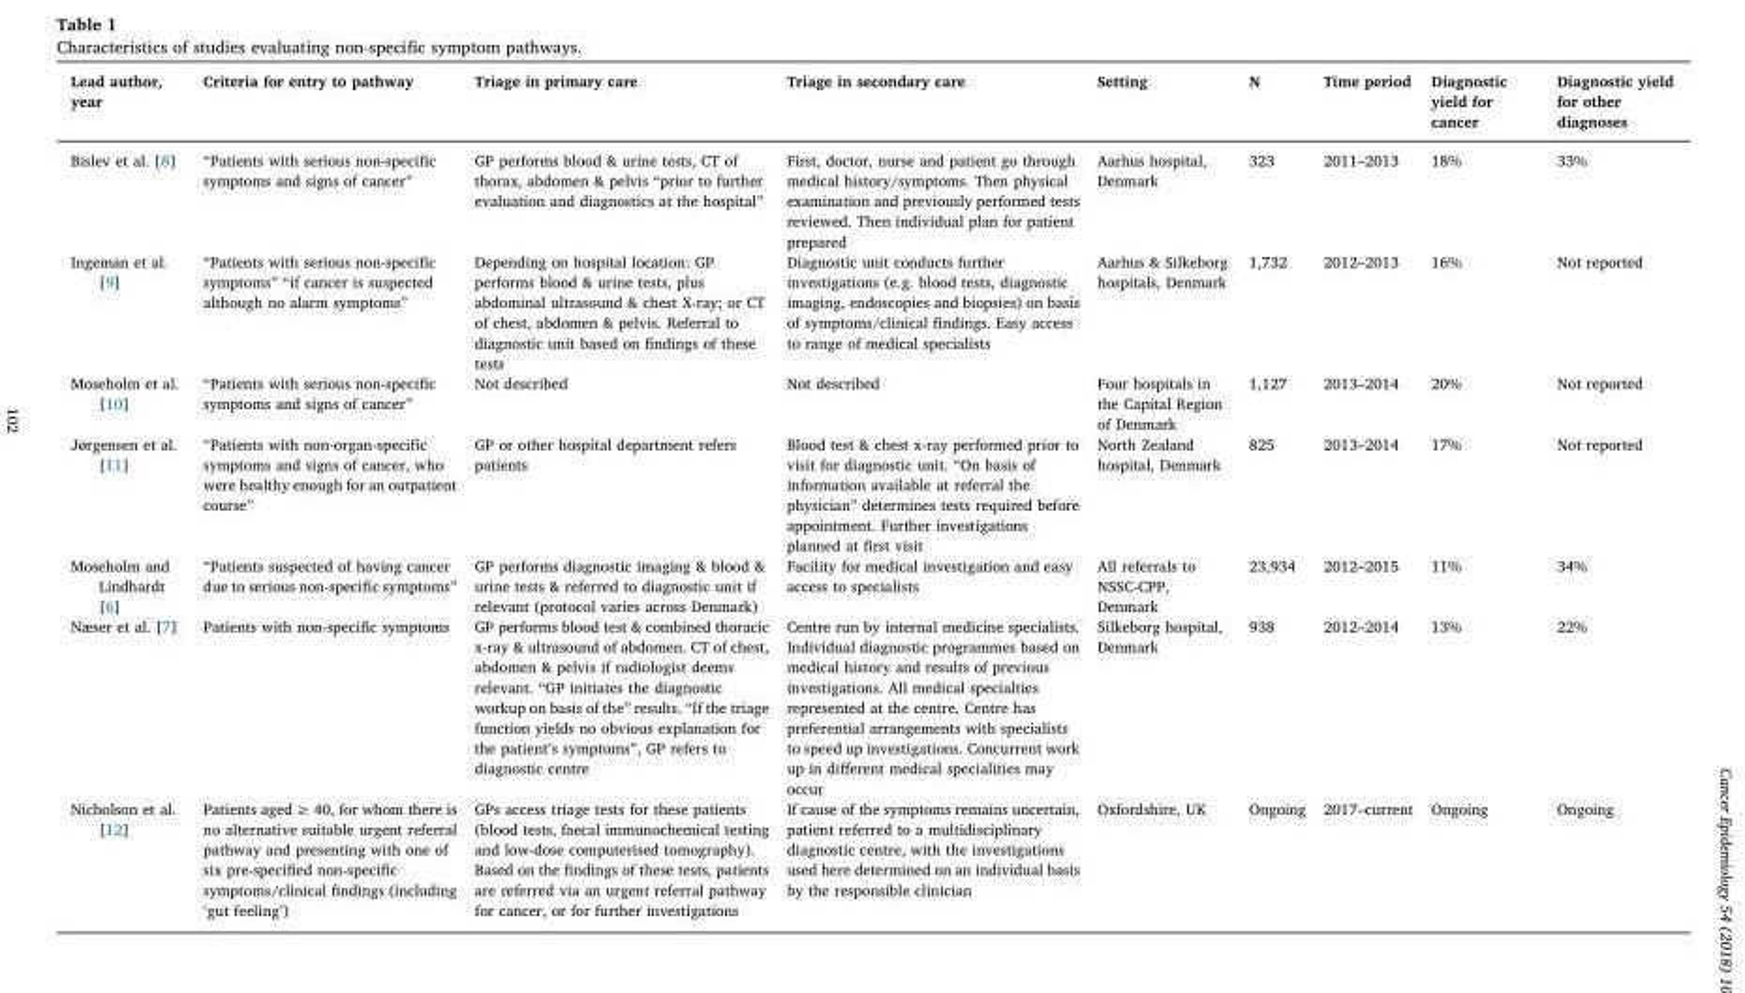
<table><thead><tr><td>Lead author, year</td><td>Criteria for entry to pathway</td><td>Triage in primary care</td><td>Triage in secondary care</td><td>Setting</td><td>N</td><td>Time period</td><td>Diagnostic yield for cancer</td><td>Diagnostic yield for other diagnoses</td></tr></thead><tbody><tr><td>Bislev et al. [8]</td><td>“Patients with serious non-specific symptoms and signs of cancer”</td><td>GP performs blood &amp; urine tests, CT of thorax, abdomen &amp; pelvis “prior to further evaluation and diagnostics at the hospital”</td><td>First, doctor, nurse and patient go through medical history/symptoms. Then physical examination and previously performed tests reviewed. Then individual plan for patient prepared</td><td>Aarhus hospital, Denmark</td><td>323</td><td>2011–2013</td><td>18%</td><td>33%</td></tr><tr><td>Ingeman et al. [9]</td><td>“Patients with serious non-specific symptoms” “if cancer is suspected although no alarm symptoms”</td><td>Depending on hospital location: GP performs blood &amp; urine tests, plus abdominal ultrasound &amp; chest X-ray; or CT of chest, abdomen &amp; pelvis. Referral to diagnostic unit based on findings of these tests</td><td>Diagnostic unit conducts further investigations (e.g. blood tests, diagnostic imaging, endoscopies and biopsies) on basis of symptoms/clinical findings. Easy access to range of medical specialists</td><td>Aarhus &amp; Silkeborg hospitals, Denmark</td><td>1,732</td><td>2012–2013</td><td>16%</td><td>Not reported</td></tr><tr><td>Moseholm et al. [10]</td><td>“Patients with serious non-specific symptoms and signs of cancer”</td><td>Not described</td><td>Not described</td><td>Four hospitals in the Capital Region of Denmark</td><td>1,127</td><td>2013–2014</td><td>20%</td><td>Not reported</td></tr><tr><td>Jørgensen et al. [11]</td><td>“Patients with non-organ-specific symptoms and signs of cancer, who were healthy enough for an outpatient course”</td><td>GP or other hospital department refers patients</td><td>Blood test &amp; chest x-ray performed prior to visit for diagnostic unit. “On basis of information available at referral the physician” determines tests required before appointment. Further investigations planned at first visit</td><td>North Zealand hospital, Denmark</td><td>825</td><td>2013–2014</td><td>17%</td><td>Not reported</td></tr><tr><td>Moseholm and Lindhardt [6]</td><td>“Patients suspected of having cancer due to serious non-specific symptoms”</td><td>GP performs diagnostic imaging &amp; blood &amp; urine tests &amp; referred to diagnostic unit if relevant (protocol varies across Denmark)</td><td>Facility for medical investigation and easy access to specialists</td><td>All referrals to NSSC-CPP, Denmark</td><td>23,934</td><td>2012–2015</td><td>11%</td><td>34%</td></tr><tr><td>Næser et al. [7]</td><td>Patients with non-specific symptoms</td><td>GP performs blood test &amp; combined thoracic x-ray &amp; ultrasound of abdomen. CT of chest, abdomen &amp; pelvis if radiologist deems relevant. “GP initiates the diagnostic workup on basis of the” results. “If the triage function yields no obvious explanation for the patient’s symptoms”, GP refers to diagnostic centre</td><td>Centre run by internal medicine specialists. Individual diagnostic programmes based on medical history and results of previous investigations. All medical specialties represented at the centre. Centre has preferential arrangements with specialists to speed up investigations. Concurrent work up in different medical specialities may occur</td><td>Silkeborg hospital, Denmark</td><td>938</td><td>2012–2014</td><td>13%</td><td>22%</td></tr><tr><td>Nicholson et al. [12]</td><td>Patients aged ≥ 40, for whom there is no alternative suitable urgent referral pathway and presenting with one of six pre-specified non-specific symptoms/clinical findings (including ‘gut feeling’)</td><td>GPs access triage tests for these patients (blood tests, faecal immunochemical testing and low-dose computerised tomography). Based on the findings of these tests, patients are referred via an urgent referral pathway for cancer, or for further investigations</td><td>If cause of the symptoms remains uncertain, patient referred to a multidisciplinary diagnostic centre, with the investigations used here determined on an individual basis by the responsible clinician</td><td>Oxfordshire, UK</td><td>Ongoing</td><td>2017–current</td><td>Ongoing</td><td>Ongoing</td></tr></tbody></table>